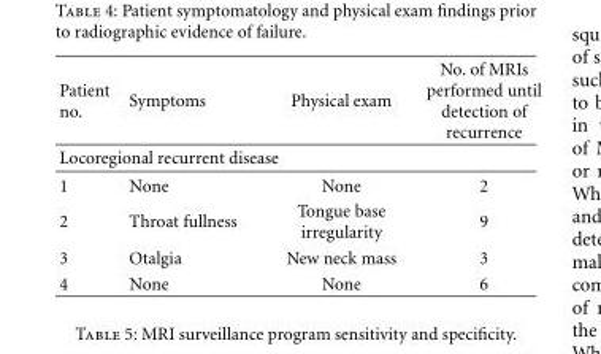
<table><thead><tr><td>Patient no.</td><td>Symptoms</td><td>Physical exam</td><td>No. of MRIs performed until detection of recurrence</td></tr></thead><tbody><tr><td colspan="4">Locoregional recurrent disease</td></tr><tr><td>1</td><td>None</td><td>None</td><td>2</td></tr><tr><td>2</td><td>Throat fullness</td><td>Tongue base irregularity</td><td>9</td></tr><tr><td>3</td><td>Otalgia</td><td>New neck mass</td><td>3</td></tr><tr><td>4</td><td>None</td><td>None</td><td>6</td></tr></tbody></table>